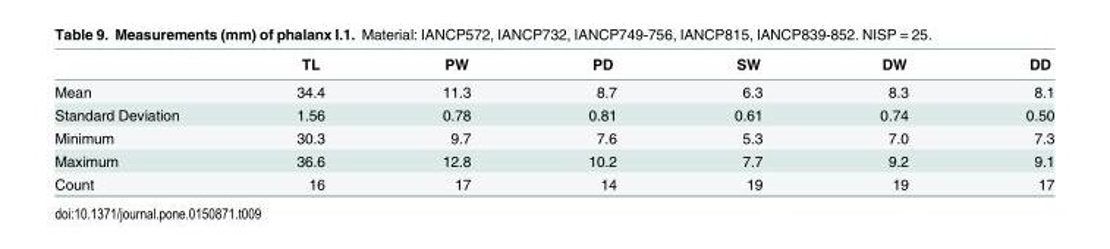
<table><thead><tr><td></td><td>TL</td><td>PW</td><td>PD</td><td>SW</td><td>DW</td><td>DD</td></tr></thead><tbody><tr><td>Mean</td><td>34.4</td><td>11.3</td><td>8.7</td><td>6.3</td><td>8.3</td><td>8.1</td></tr><tr><td>Standard Deviation</td><td>1.56</td><td>0.78</td><td>0.81</td><td>0.61</td><td>0.74</td><td>0.50</td></tr><tr><td>Minimum</td><td>30.3</td><td>9.7</td><td>7.6</td><td>5.3</td><td>7.0</td><td>7.3</td></tr><tr><td>Maximum</td><td>36.6</td><td>12.8</td><td>10.2</td><td>7.7</td><td>9.2</td><td>9.1</td></tr><tr><td>Count</td><td>16</td><td>17</td><td>14</td><td>19</td><td>19</td><td>17</td></tr></tbody></table>